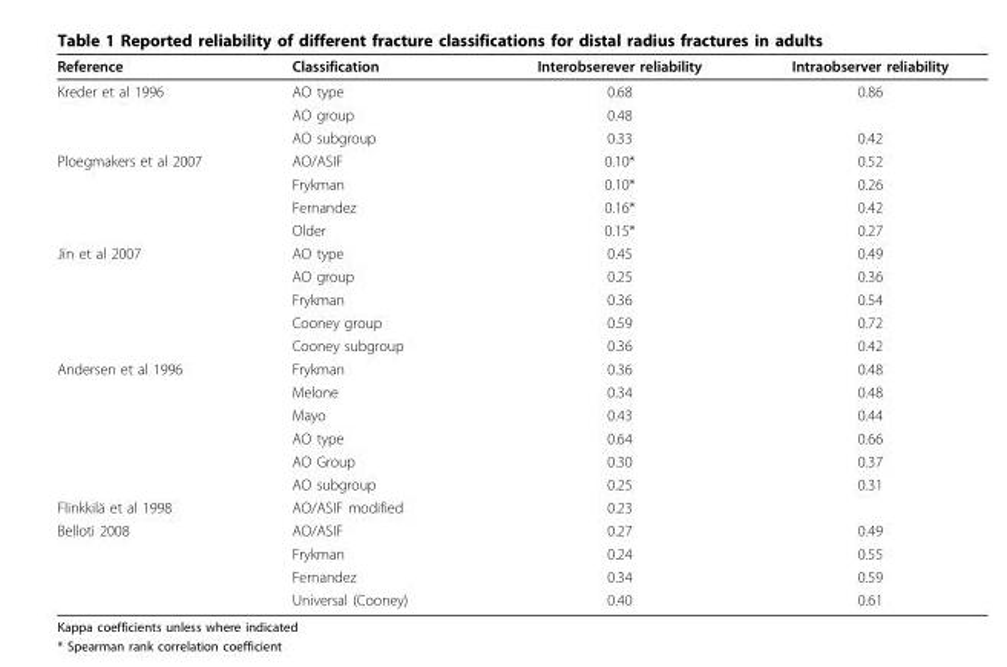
<table><thead><tr><td>Reference</td><td>Classification</td><td>Interobserever reliability</td><td>Intraobserver reliability</td></tr></thead><tbody><tr><td rowspan="3">Kreder et al 1996</td><td>AO type</td><td>0.68</td><td>0.86</td></tr><tr><td>AO group</td><td>0.48</td><td></td></tr><tr><td>AO subgroup</td><td>0.33</td><td>0.42</td></tr><tr><td rowspan="4">Ploegmakers et al 2007</td><td>AO/ASIF</td><td>0.10*</td><td>0.52</td></tr><tr><td>Frykman</td><td>0.10*</td><td>0.26</td></tr><tr><td>Fernandez</td><td>0.16*</td><td>0.42</td></tr><tr><td>Older</td><td>0.15*</td><td>0.27</td></tr><tr><td rowspan="5">Jin et al 2007</td><td>AO type</td><td>0.45</td><td>0.49</td></tr><tr><td>AO group</td><td>0.25</td><td>0.36</td></tr><tr><td>Frykman</td><td>0.36</td><td>0.54</td></tr><tr><td>Cooney group</td><td>0.59</td><td>0.72</td></tr><tr><td>Cooney subgroup</td><td>0.36</td><td>0.42</td></tr><tr><td rowspan="6">Andersen et al 1996</td><td>Frykman</td><td>0.36</td><td>0.48</td></tr><tr><td>Melone</td><td>0.34</td><td>0.48</td></tr><tr><td>Mayo</td><td>0.43</td><td>0.44</td></tr><tr><td>AO type</td><td>0.64</td><td>0.66</td></tr><tr><td>AO Group</td><td>0.30</td><td>0.37</td></tr><tr><td>AO subgroup</td><td>0.25</td><td>0.31</td></tr><tr><td>Flinkkilä et al 1998</td><td>AO/ASIF modified</td><td>0.23</td><td></td></tr><tr><td rowspan="4">Belloti 2008</td><td>AO/ASIF</td><td>0.27</td><td>0.49</td></tr><tr><td>Frykman</td><td>0.24</td><td>0.55</td></tr><tr><td>Fernandez</td><td>0.34</td><td>0.59</td></tr><tr><td>Universal (Cooney)</td><td>0.40</td><td>0.61</td></tr></tbody></table>